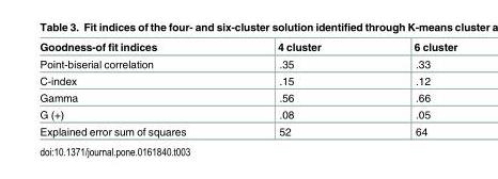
<table><thead><tr><td>Goodness-of fit indices</td><td>4 cluster</td><td>6 cluster</td></tr></thead><tbody><tr><td>Point-biserial correlation</td><td>.35</td><td>.33</td></tr><tr><td>C-index</td><td>.15</td><td>.12</td></tr><tr><td>Gamma</td><td>.56</td><td>.66</td></tr><tr><td>G (+)</td><td>.08</td><td>.05</td></tr><tr><td>Explained error sum of squares</td><td>52</td><td>64</td></tr></tbody></table>